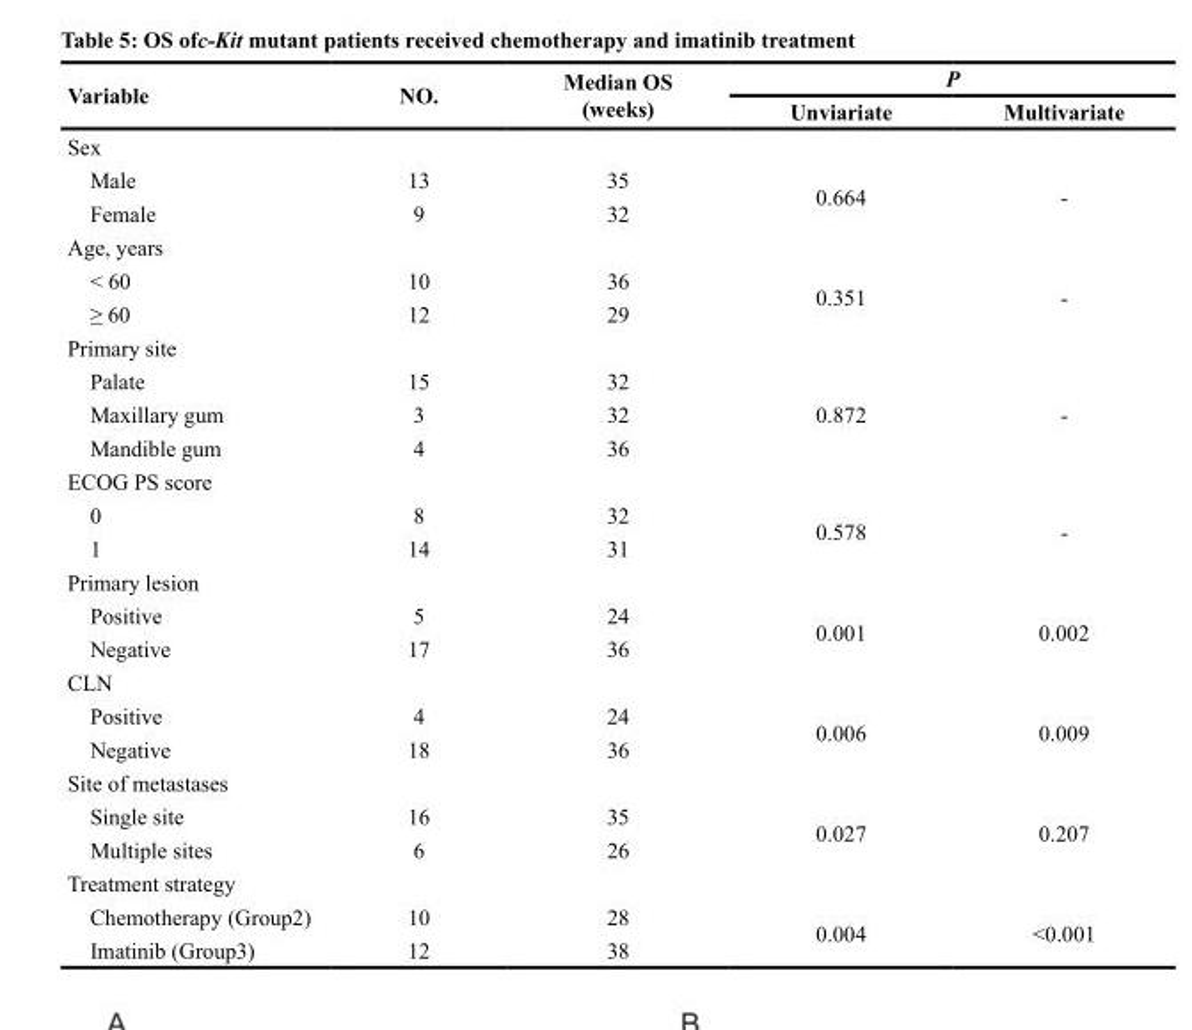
<table><thead><tr><td rowspan="2">Variable</td><td rowspan="2">NO.</td><td rowspan="2">Median OS (weeks)</td><td colspan="2">P</td></tr><tr><td>Unviariate</td><td>Multivariate</td></tr></thead><tbody><tr><td colspan="5">Sex</td></tr><tr><td>Male</td><td>13</td><td>35</td><td rowspan="2">0.664</td><td rowspan="2">-</td></tr><tr><td>Female</td><td>9</td><td>32</td></tr><tr><td colspan="5">Age, years</td></tr><tr><td>&lt; 60</td><td>10</td><td>36</td><td rowspan="2">0.351</td><td rowspan="2">-</td></tr><tr><td>≥ 60</td><td>12</td><td>29</td></tr><tr><td colspan="5">Primary site</td></tr><tr><td>Palate</td><td>15</td><td>32</td><td rowspan="3">0.872</td><td rowspan="3">-</td></tr><tr><td>Maxillary gum</td><td>3</td><td>32</td></tr><tr><td>Mandible gum</td><td>4</td><td>36</td></tr><tr><td colspan="5">ECOG PS score</td></tr><tr><td>0</td><td>8</td><td>32</td><td rowspan="2">0.578</td><td rowspan="2">-</td></tr><tr><td>1</td><td>14</td><td>31</td></tr><tr><td colspan="5">Primary lesion</td></tr><tr><td>Positive</td><td>5</td><td>24</td><td rowspan="2">0.001</td><td rowspan="2">0.002</td></tr><tr><td>Negative</td><td>17</td><td>36</td></tr><tr><td colspan="5">CLN</td></tr><tr><td>Positive</td><td>4</td><td>24</td><td rowspan="2">0.006</td><td rowspan="2">0.009</td></tr><tr><td>Negative</td><td>18</td><td>36</td></tr><tr><td colspan="5">Site of metastases</td></tr><tr><td>Single site</td><td>16</td><td>35</td><td rowspan="2">0.027</td><td rowspan="2">0.207</td></tr><tr><td>Multiple sites</td><td>6</td><td>26</td></tr><tr><td colspan="5">Treatment strategy</td></tr><tr><td>Chemotherapy (Group2)</td><td>10</td><td>28</td><td rowspan="2">0.004</td><td rowspan="2">&lt;0.001</td></tr><tr><td>Imatinib (Group3)</td><td>12</td><td>38</td></tr></tbody></table>